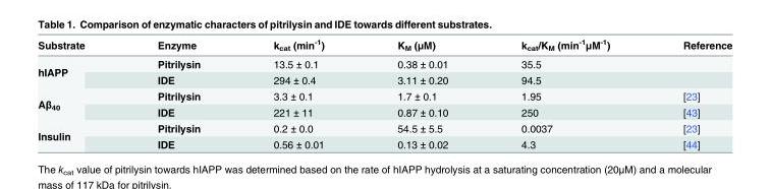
<table><thead><tr><td>Substrate</td><td>Enzyme</td><td>k<sub>cat</sub> (min<sup>-1</sup>)</td><td>K<sub>M</sub> (μM)</td><td>k<sub>cat</sub>/K<sub>M</sub> (min<sup>-1</sup>μM<sup>-1</sup>)</td><td>Reference</td></tr></thead><tbody><tr><td rowspan="2">hIAPP</td><td>Pitrilysin</td><td>13.5 ± 0.1</td><td>0.38 ± 0.01</td><td>35.5</td><td></td></tr><tr><td>IDE</td><td>294 ± 0.4</td><td>3.11 ± 0.20</td><td>94.5</td><td></td></tr><tr><td rowspan="2">Aβ<sub>40</sub></td><td>Pitrilysin</td><td>3.3 ± 0.1</td><td>1.7 ± 0.1</td><td>1.95</td><td>[23]</td></tr><tr><td>IDE</td><td>221 ± 11</td><td>0.87 ± 0.10</td><td>250</td><td>[43]</td></tr><tr><td rowspan="2">Insulin</td><td>Pitrilysin</td><td>0.2 ± 0.0</td><td>54.5 ± 5.5</td><td>0.0037</td><td>[23]</td></tr><tr><td>IDE</td><td>0.56 ± 0.01</td><td>0.13 ± 0.02</td><td>4.3</td><td>[44]</td></tr></tbody></table>